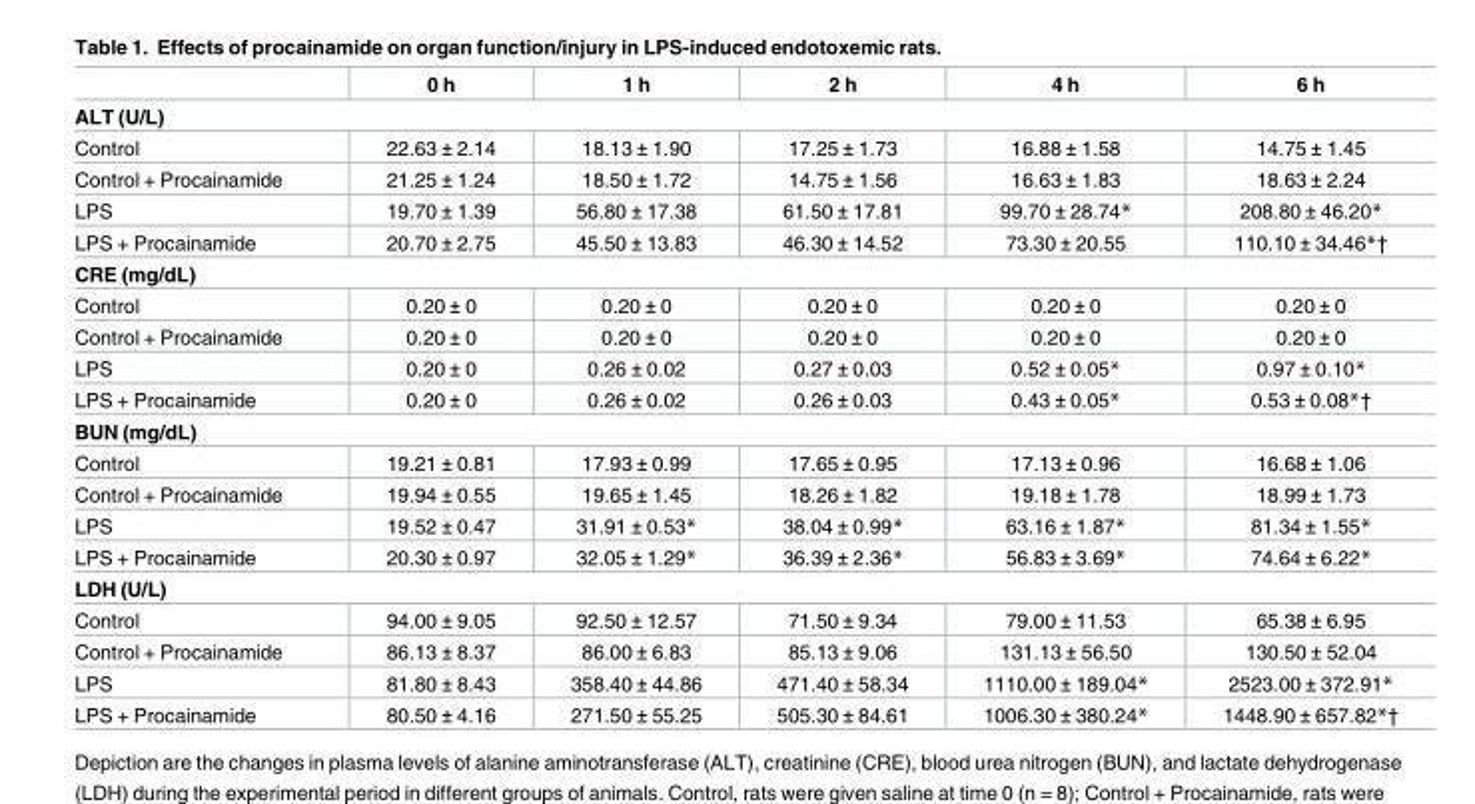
<table><thead><tr><td></td><td>0 h</td><td>1 h</td><td>2 h</td><td>4 h</td><td>6 h</td></tr></thead><tbody><tr><td colspan="6">ALT (U/L)</td></tr><tr><td>Control</td><td>22.63 ± 2.14</td><td>18.13 ± 1.90</td><td>17.25 ± 1.73</td><td>16.88 ± 1.58</td><td>14.75 ± 1.45</td></tr><tr><td>Control + Procainamide</td><td>21.25 ± 1.24</td><td>18.50 ± 1.72</td><td>14.75 ± 1.56</td><td>16.63 ± 1.83</td><td>18.63 ± 2.24</td></tr><tr><td>LPS</td><td>19.70 ± 1.39</td><td>56.80 ± 17.38</td><td>61.50 ± 17.81</td><td>99.70 ± 28.74*</td><td>208.80 ± 46.20*</td></tr><tr><td>LPS + Procainamide</td><td>20.70 ± 2.75</td><td>45.50 ± 13.83</td><td>46.30 ± 14.52</td><td>73.30 ± 20.55</td><td>110.10 ± 34.46*†</td></tr><tr><td colspan="6">CRE (mg/dL)</td></tr><tr><td>Control</td><td>0.20 ± 0</td><td>0.20 ± 0</td><td>0.20 ± 0</td><td>0.20 ± 0</td><td>0.20 ± 0</td></tr><tr><td>Control + Procainamide</td><td>0.20 ± 0</td><td>0.20 ± 0</td><td>0.20 ± 0</td><td>0.20 ± 0</td><td>0.20 ± 0</td></tr><tr><td>LPS</td><td>0.20 ± 0</td><td>0.26 ± 0.02</td><td>0.27 ± 0.03</td><td>0.52 ± 0.05*</td><td>0.97 ± 0.10*</td></tr><tr><td>LPS + Procainamide</td><td>0.20 ± 0</td><td>0.26 ± 0.02</td><td>0.26 ± 0.03</td><td>0.43 ± 0.05*</td><td>0.53 ± 0.08*†</td></tr><tr><td colspan="6">BUN (mg/dL)</td></tr><tr><td>Control</td><td>19.21 ± 0.81</td><td>17.93 ± 0.99</td><td>17.65 ± 0.95</td><td>17.13 ± 0.96</td><td>16.68 ± 1.06</td></tr><tr><td>Control + Procainamide</td><td>19.94 ± 0.55</td><td>19.65 ± 1.45</td><td>18.26 ± 1.82</td><td>19.18 ± 1.78</td><td>18.99 ± 1.73</td></tr><tr><td>LPS</td><td>19.52 ± 0.47</td><td>31.91 ± 0.53*</td><td>38.04 ± 0.99*</td><td>63.16 ± 1.87*</td><td>81.34 ± 1.55*</td></tr><tr><td>LPS + Procainamide</td><td>20.30 ± 0.97</td><td>32.05 ± 1.29*</td><td>36.39 ± 2.36*</td><td>56.83 ± 3.69*</td><td>74.64 ± 6.22*</td></tr><tr><td colspan="6">LDH (U/L)</td></tr><tr><td>Control</td><td>94.00 ± 9.05</td><td>92.50 ± 12.57</td><td>71.50 ± 9.34</td><td>79.00 ± 11.53</td><td>65.38 ± 6.95</td></tr><tr><td>Control + Procainamide</td><td>86.13 ± 8.37</td><td>86.00 ± 6.83</td><td>85.13 ± 9.06</td><td>131.13 ± 56.50</td><td>130.50 ± 52.04</td></tr><tr><td>LPS</td><td>81.80 ± 8.43</td><td>358.40 ± 44.86</td><td>471.40 ± 58.34</td><td>1110.00 ± 189.04*</td><td>2523.00 ± 372.91*</td></tr><tr><td>LPS + Procainamide</td><td>80.50 ± 4.16</td><td>271.50 ± 55.25</td><td>505.30 ± 84.61</td><td>1006.30 ± 380.24*</td><td>1448.90 ± 657.82*†</td></tr></tbody></table>